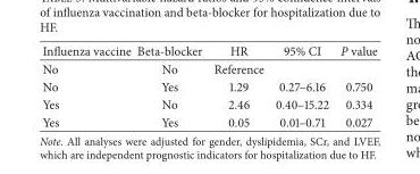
<table><thead><tr><td>Influenza vaccine</td><td>Beta-blocker</td><td>HR</td><td>95% CI</td><td>P value</td></tr></thead><tbody><tr><td>No</td><td>No</td><td>Reference</td><td></td><td></td></tr><tr><td>No</td><td>Yes</td><td>1.29</td><td>0.27–6.16</td><td>0.750</td></tr><tr><td>Yes</td><td>No</td><td>2.46</td><td>0.40–15.22</td><td>0.334</td></tr><tr><td>Yes</td><td>Yes</td><td>0.05</td><td>0.01–0.71</td><td>0.027</td></tr></tbody></table>